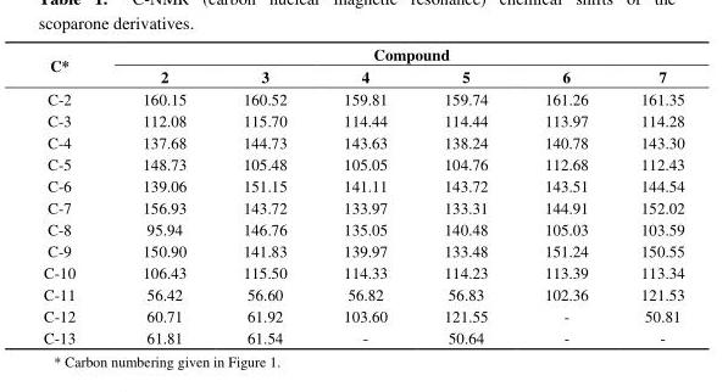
<table><thead><tr><td rowspan="2">C*</td><td colspan="6">Compound</td></tr><tr><td>2</td><td>3</td><td>4</td><td>5</td><td>6</td><td>7</td></tr></thead><tbody><tr><td>C-2</td><td>160.15</td><td>160.52</td><td>159.81</td><td>159.74</td><td>161.26</td><td>161.35</td></tr><tr><td>C-3</td><td>112.08</td><td>115.70</td><td>114.44</td><td>114.44</td><td>113.97</td><td>114.28</td></tr><tr><td>C-4</td><td>137.68</td><td>144.73</td><td>143.63</td><td>138.24</td><td>140.78</td><td>143.30</td></tr><tr><td>C-5</td><td>148.73</td><td>105.48</td><td>105.05</td><td>104.76</td><td>112.68</td><td>112.43</td></tr><tr><td>C-6</td><td>139.06</td><td>151.15</td><td>141.11</td><td>143.72</td><td>143.51</td><td>144.54</td></tr><tr><td>C-7</td><td>156.93</td><td>143.72</td><td>133.97</td><td>133.31</td><td>144.91</td><td>152.02</td></tr><tr><td>C-8</td><td>95.94</td><td>146.76</td><td>135.05</td><td>140.48</td><td>105.03</td><td>103.59</td></tr><tr><td>C-9</td><td>150.90</td><td>141.83</td><td>139.97</td><td>133.48</td><td>151.24</td><td>150.55</td></tr><tr><td>C-10</td><td>106.43</td><td>115.50</td><td>114.33</td><td>114.23</td><td>113.39</td><td>113.34</td></tr><tr><td>C-11</td><td>56.42</td><td>56.60</td><td>56.82</td><td>56.83</td><td>102.36</td><td>121.53</td></tr><tr><td>C-12</td><td>60.71</td><td>61.92</td><td>103.60</td><td>121.55</td><td>-</td><td>50.81</td></tr><tr><td>C-13</td><td>61.81</td><td>61.54</td><td>-</td><td>50.64</td><td>-</td><td>-</td></tr></tbody></table>